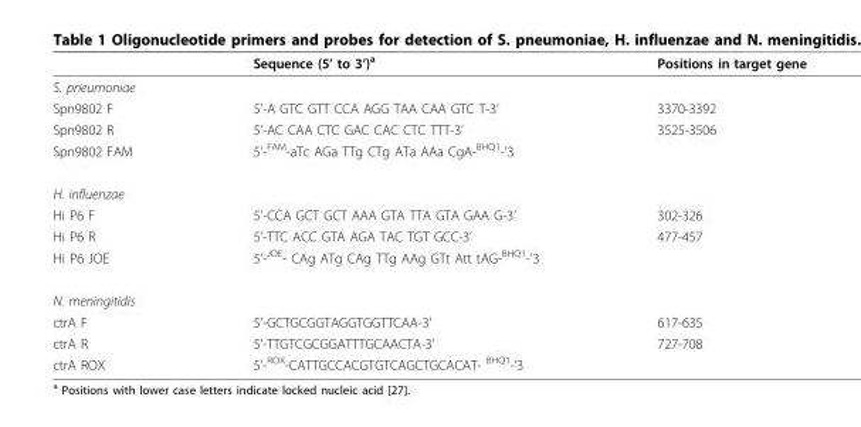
<table><thead><tr><td></td><td>Sequence (5’ to 3’)<sup>a</sup></td><td>Positions in target gene</td></tr></thead><tbody><tr><td colspan="3">S. pneumoniae</td></tr><tr><td>Spn9802 F</td><td>5’-A GTC GTT CCA AGG TAA CAA GTC T-3’</td><td>3370-3392</td></tr><tr><td>Spn9802 R</td><td>5’-AC CAA CTC GAC CAC CTC TTT-3’</td><td>3525-3506</td></tr><tr><td>Spn9802 FAM</td><td>5’-<sup>FAM</sup>-aTc AGa TTg CTg ATa AAa CgA-<sup>BHQ1</sup>-’3</td><td></td></tr><tr><td colspan="3">H. influenzae</td></tr><tr><td>Hi P6 F</td><td>5’-CCA GCT GCT AAA GTA TTA GTA GAA G-3’</td><td>302-326</td></tr><tr><td>Hi P6 R</td><td>5’-TTC ACC GTA AGA TAC TGT GCC-3’</td><td>477-457</td></tr><tr><td>Hi P6 JOE</td><td>5’-<sup>JOE</sup>- CAg ATg CAg TTg AAg GTt Att tAG-<sup>BHQ1</sup>-’3</td><td></td></tr><tr><td colspan="3">N. meningitidis</td></tr><tr><td>ctrA F</td><td>5’-GCTGCGGTAGGTGGTTCAA-3’</td><td>617-635</td></tr><tr><td>ctrA R</td><td>5’-TTGTCGCGGATTTGCAACTA-3’</td><td>727-708</td></tr><tr><td>ctrA ROX</td><td>5’-<sup>ROX</sup>-CATTGCCACGTGTCAGCTGCACAT- <sup>BHQ1</sup>-’3</td><td></td></tr></tbody></table>